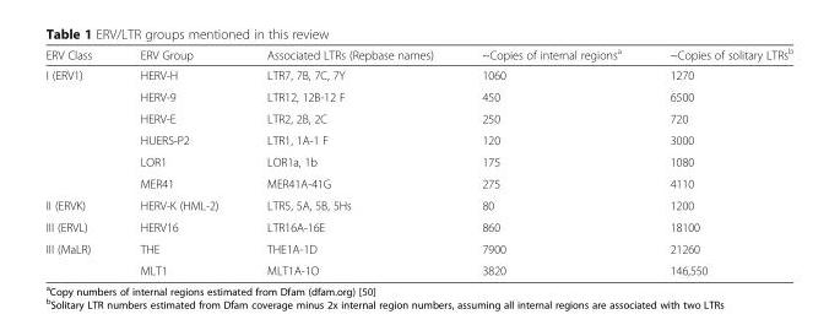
<table><thead><tr><td>ERV Class</td><td>ERV Group</td><td>Associated LTRs (Repbase names)</td><td>~Copies of internal regions<sup>a</sup></td><td>~Copies of solitary LTRs<sup>b</sup></td></tr></thead><tbody><tr><td rowspan="6">I (ERV1)</td><td>HERV-H</td><td>LTR7, 7B, 7C, 7Y</td><td>1060</td><td>1270</td></tr><tr><td>HERV-9</td><td>LTR12, 12B-12 F</td><td>450</td><td>6500</td></tr><tr><td>HERV-E</td><td>LTR2, 2B, 2C</td><td>250</td><td>720</td></tr><tr><td>HUERS-P2</td><td>LTR1, 1A-1 F</td><td>120</td><td>3000</td></tr><tr><td>LOR1</td><td>LOR1a, 1b</td><td>175</td><td>1080</td></tr><tr><td>MER41</td><td>MER41A-41G</td><td>275</td><td>4110</td></tr><tr><td>II (ERVK)</td><td>HERV-K (HML-2)</td><td>LTR5, 5A, 5B, 5Hs</td><td>80</td><td>1200</td></tr><tr><td>III (ERVL)</td><td>HERV16</td><td>LTR16A-16E</td><td>860</td><td>18100</td></tr><tr><td rowspan="2">III (MaLR)</td><td>THE</td><td>THE1A-1D</td><td>7900</td><td>21260</td></tr><tr><td>MLT1</td><td>MLT1A-1O</td><td>3820</td><td>146,550</td></tr></tbody></table>